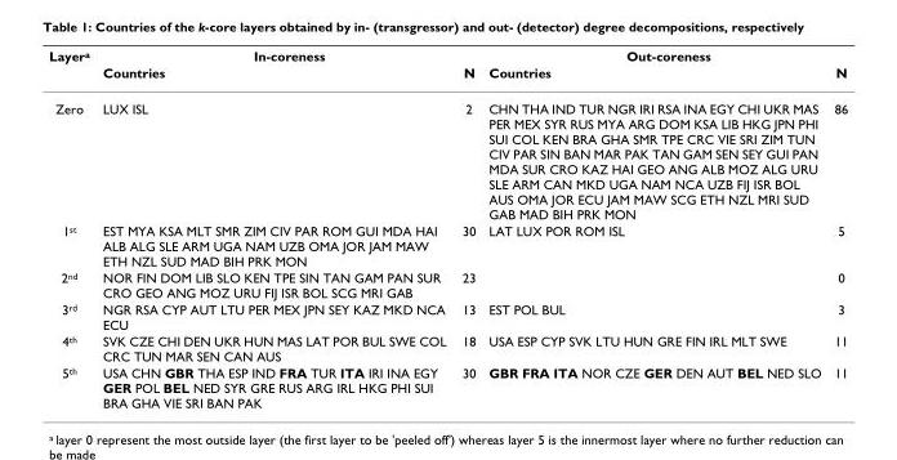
<table><thead><tr><td rowspan="2">Layer<sup>a</sup></td><td colspan="2">In-coreness</td><td colspan="2">Out-coreness</td></tr><tr><td>Countries</td><td>N</td><td>Countries</td><td>N</td></tr></thead><tbody><tr><td>Zero</td><td>LUX ISL</td><td>2</td><td>CHN THA IND TUR NGR IRI RSA INA EGY CHI UKR MAS PER MEX SYR RUS MYA ARG DOM KSA LIB HKG JPN PHI SUI COL KEN BRA GHA SMR TPE CRC VIE SRI ZIM TUN CIV PAR SIN BAN MAR PAK TAN GAM SEN SEY GUI PAN MDA SUR CRO KAZ HAI GEO ANG ALB MOZ ALG URU SLE ARM CAN MKD UGA NAM NCA UZB FIJ ISR BOL AUS OMA JOR ECU JAM MAW SCG ETH NZL MRI SUD GAB MAD BIH PRK MON</td><td>86</td></tr><tr><td>1<sup>st</sup></td><td>EST MYA KSA MLT SMR ZIM CIV PAR ROM GUI MDA HAI ALB ALG SLE ARM UGA NAM UZB OMA JOR JAM MAW ETH NZL SUD MAD BIH PRK MON</td><td>30</td><td>LAT LUX POR ROM ISL</td><td>5</td></tr><tr><td>2<sup>nd</sup></td><td>NOR FIN DOM LIB SLO KEN TPE SIN TAN GAM PAN SUR CRO GEO ANG MOZ URU FIJ ISR BOL SCG MRI GAB</td><td>23</td><td></td><td>0</td></tr><tr><td>3<sup>rd</sup></td><td>NGR RSA CYP AUT LTU PER MEX JPN SEY KAZ MKD NCA ECU</td><td>13</td><td>EST POL BUL</td><td>3</td></tr><tr><td>4<sup>th</sup></td><td>SVK CZE CHI DEN UKR HUN MAS LAT POR BUL SWE COL CRC TUN MAR SEN CAN AUS</td><td>18</td><td>USA ESP CYP SVK LTU HUN GRE FIN IRL MLT SWE</td><td>11</td></tr><tr><td>5<sup>th</sup></td><td>USA CHN GBR THA ESP IND FRA TUR ITA IRI INA EGY GER POL BEL NED SYR GRE RUS ARG IRL HKG PHI SUI BRA GHA VIE SRI BAN PAK</td><td>30</td><td>GBR FRA ITA NOR CZE GER DEN AUT BEL NED SLO</td><td>11</td></tr></tbody></table>